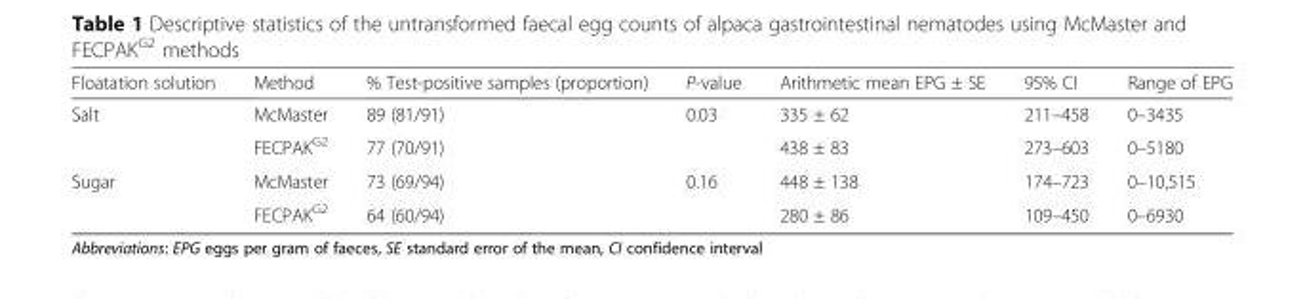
<table><thead><tr><td>Floatation solution</td><td>Method</td><td>% Test-positive samples (proportion)</td><td>P-value</td><td>Arithmetic mean EPG ± SE</td><td>95% CI</td><td>Range of EPG</td></tr></thead><tbody><tr><td rowspan="2">Salt</td><td>McMaster</td><td>89 (81/91)</td><td rowspan="2">0.03</td><td>335 ± 62</td><td>211–458</td><td>0–3435</td></tr><tr><td>FECPAK<sup>G2</sup></td><td>77 (70/91)</td><td>438 ± 83</td><td>273–603</td><td>0–5180</td></tr><tr><td rowspan="2">Sugar</td><td>McMaster</td><td>73 (69/94)</td><td rowspan="2">0.16</td><td>448 ± 138</td><td>174–723</td><td>0–10,515</td></tr><tr><td>FECPAK<sup>G2</sup></td><td>64 (60/94)</td><td>280 ± 86</td><td>109–450</td><td>0–6930</td></tr></tbody></table>